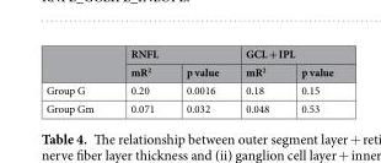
<table><thead><tr><td rowspan="2"></td><td colspan="2">RNFL</td><td colspan="2">GCL + IPL</td></tr><tr><td>mR<sup>2</sup></td><td>p value</td><td>mR<sup>2</sup></td><td>p value</td></tr></thead><tbody><tr><td>Group G</td><td>0.20</td><td>0.0016</td><td>0.18</td><td>0.15</td></tr><tr><td>Group Gm</td><td>0.071</td><td>0.032</td><td>0.048</td><td>0.53</td></tr></tbody></table>